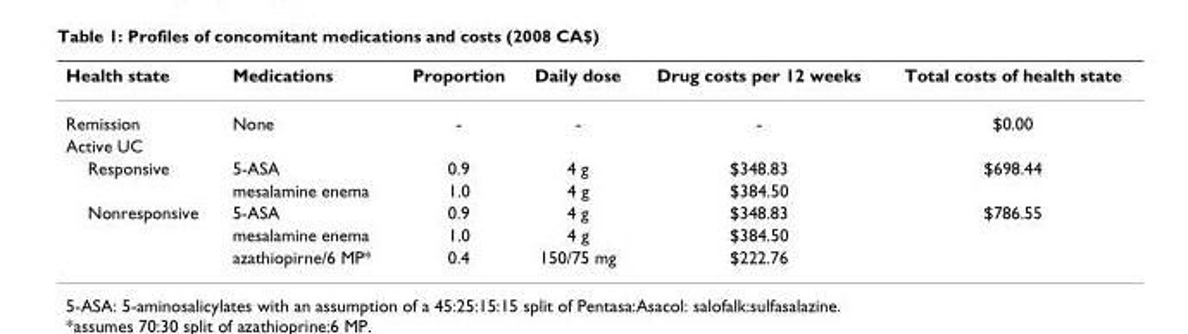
<table><thead><tr><td>Health state</td><td>Medications</td><td>Proportion</td><td>Daily dose</td><td>Drug costs per 12 weeks</td><td>Total costs of health state</td></tr></thead><tbody><tr><td>Remission</td><td>None</td><td>-</td><td>-</td><td>-</td><td>$0.00</td></tr><tr><td colspan="6">Active UC</td></tr><tr><td rowspan="2">Responsive</td><td>5-ASA</td><td>0.9</td><td>4 g</td><td>$348.83</td><td>$698.44</td></tr><tr><td>mesalamine enema</td><td>1.0</td><td>4 g</td><td>$384.50</td><td></td></tr><tr><td rowspan="3">Nonresponsive</td><td>5-ASA</td><td>0.9</td><td>4 g</td><td>$348.83</td><td>$786.55</td></tr><tr><td>mesalamine enema</td><td>1.0</td><td>4 g</td><td>$384.50</td><td></td></tr><tr><td>azathiopirne/6 MP*</td><td>0.4</td><td>150/75 mg</td><td>$222.76</td><td></td></tr></tbody></table>